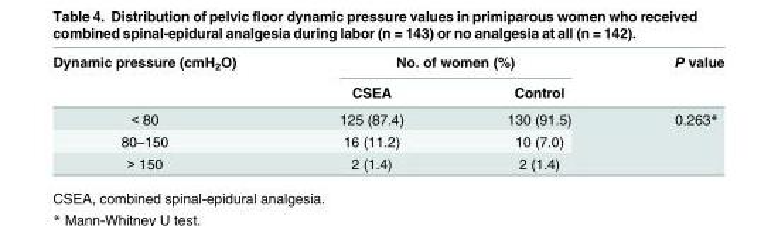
<table><thead><tr><td rowspan="2">Dynamic pressure (cmH<sub>2</sub>O)</td><td colspan="2">No. of women (%)</td><td rowspan="2">P value</td></tr><tr><td>CSEA</td><td>Control</td></tr></thead><tbody><tr><td>&lt; 80</td><td>125 (87.4)</td><td>130 (91.5)</td><td rowspan="3">0.263*</td></tr><tr><td>80–150</td><td>16 (11.2)</td><td>10 (7.0)</td></tr><tr><td>&gt; 150</td><td>2 (1.4)</td><td>2 (1.4)</td></tr></tbody></table>